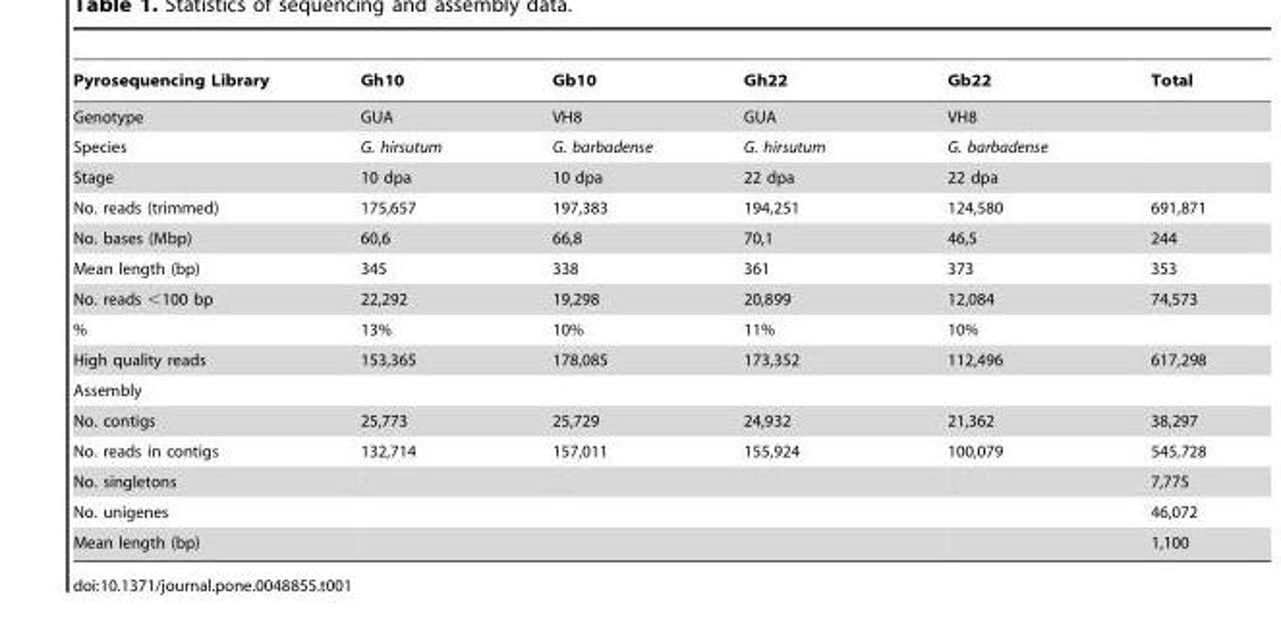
<table><thead><tr><td>Pyrosequencing Library</td><td>Gh10</td><td>Gb10</td><td>Gh22</td><td>Gb22</td><td>Total</td></tr></thead><tbody><tr><td>Genotype</td><td>GUA</td><td>VH8</td><td>GUA</td><td>VH8</td><td></td></tr><tr><td>Species</td><td>G. hirsutum</td><td>G. barbadense</td><td>G. hirsutum</td><td>G. barbadense</td><td></td></tr><tr><td>Stage</td><td>10 dpa</td><td>10 dpa</td><td>22 dpa</td><td>22 dpa</td><td></td></tr><tr><td>No. reads (trimmed)</td><td>175,657</td><td>197,383</td><td>194,251</td><td>124,580</td><td>691,871</td></tr><tr><td>No. bases (Mbp)</td><td>60,6</td><td>66,8</td><td>70,1</td><td>46,5</td><td>244</td></tr><tr><td>Mean length (bp)</td><td>345</td><td>338</td><td>361</td><td>373</td><td>353</td></tr><tr><td>No. reads &lt;100 bp</td><td>22,292</td><td>19,298</td><td>20,899</td><td>12,084</td><td>74,573</td></tr><tr><td>%</td><td>13%</td><td>10%</td><td>11%</td><td>10%</td><td></td></tr><tr><td>High quality reads</td><td>153,365</td><td>178,085</td><td>173,352</td><td>112,496</td><td>617,298</td></tr><tr><td colspan="6">Assembly</td></tr><tr><td>No. contigs</td><td>25,773</td><td>25,729</td><td>24,932</td><td>21,362</td><td>38,297</td></tr><tr><td>No. reads in contigs</td><td>132,714</td><td>157,011</td><td>155,924</td><td>100,079</td><td>545,728</td></tr><tr><td>No. singletons</td><td></td><td></td><td></td><td></td><td>7,775</td></tr><tr><td>No. unigenes</td><td></td><td></td><td></td><td></td><td>46,072</td></tr><tr><td>Mean length (bp)</td><td></td><td></td><td></td><td></td><td>1,100</td></tr></tbody></table>